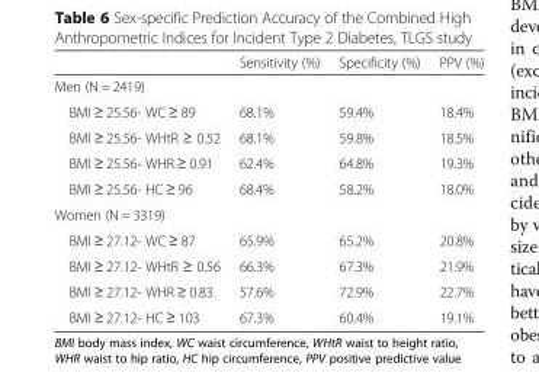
<table><thead><tr><td></td><td>Sensitivity (%)</td><td>Specificity (%)</td><td>PPV (%)</td></tr></thead><tbody><tr><td colspan="4">Men (N = 2419)</td></tr><tr><td>BMI ≥ 25.56- WC ≥ 89</td><td>68.1%</td><td>59.4%</td><td>18.4%</td></tr><tr><td>BMI ≥ 25.56- WHtR ≥ 0.52</td><td>68.1%</td><td>59.8%</td><td>18.5%</td></tr><tr><td>BMI ≥ 25.56- WHR ≥ 0.91</td><td>62.4%</td><td>64.8%</td><td>19.3%</td></tr><tr><td>BMI ≥ 25.56- HC ≥ 96</td><td>68.4%</td><td>58.2%</td><td>18.0%</td></tr><tr><td colspan="4">Women (N = 3319)</td></tr><tr><td>BMI ≥ 27.12- WC ≥ 87</td><td>65.9%</td><td>65.2%</td><td>20.8%</td></tr><tr><td>BMI ≥ 27.12- WHtR ≥ 0.56</td><td>66.3%</td><td>67.3%</td><td>21.9%</td></tr><tr><td>BMI ≥ 27.12- WHR ≥ 0.83</td><td>57.6%</td><td>72.9%</td><td>22.7%</td></tr><tr><td>BMI ≥ 27.12- HC ≥ 103</td><td>67.3%</td><td>60.4%</td><td>19.1%</td></tr></tbody></table>